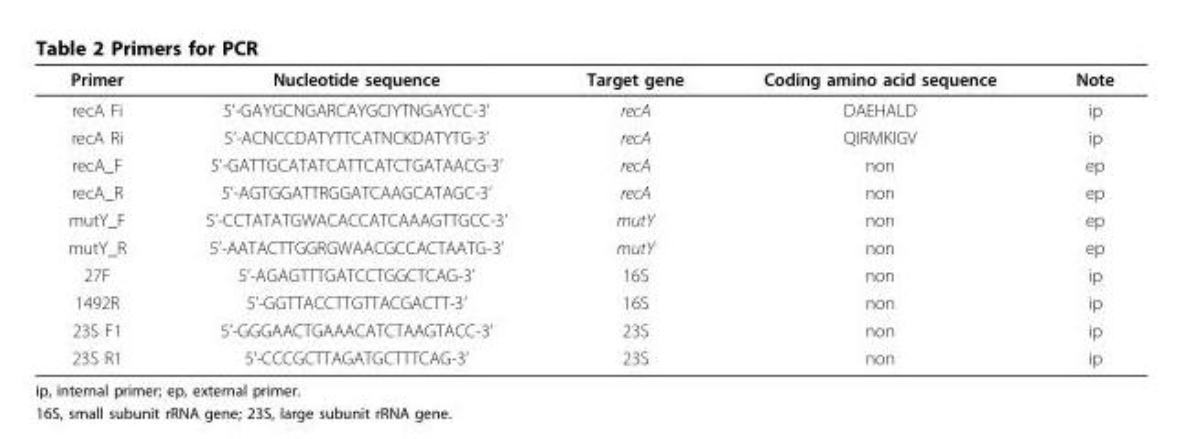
<table><thead><tr><td>Primer</td><td>Nucleotide sequence</td><td>Target gene</td><td>Coding amino acid sequence</td><td>Note</td></tr></thead><tbody><tr><td>recA Fi</td><td>5’-GAYGCNGARCAYGCIYTNGAYCC-3’</td><td>recA</td><td>DAEHALD</td><td>ip</td></tr><tr><td>recA Ri</td><td>5’-ACNCCDATYTTCATNCKDATYTG-3’</td><td>recA</td><td>QIRMKIGV</td><td>ip</td></tr><tr><td>recA_F</td><td>5’-GATTGCATATCATTCATCTGATAACG-3’</td><td>recA</td><td>non</td><td>ep</td></tr><tr><td>recA_R</td><td>5’-AGTGGATTRGGATCAAGCATAGC-3’</td><td>recA</td><td>non</td><td>ep</td></tr><tr><td>mutY_F</td><td>5’-CCTATATGWACACCATCAAAGTTGCC-3’</td><td>mutY</td><td>non</td><td>ep</td></tr><tr><td>mutY_R</td><td>5’-AATACTTGGRGWAACGCCACTAATG-3’</td><td>mutY</td><td>non</td><td>ep</td></tr><tr><td>27F</td><td>5’-AGAGTTTGATCCTGGCTCAG-3’</td><td>16S</td><td>non</td><td>ip</td></tr><tr><td>1492R</td><td>5’-GGTTACCTTGTTACGACTT-3’</td><td>16S</td><td>non</td><td>ip</td></tr><tr><td>23S F1</td><td>5’-GGGAACTGAAACATCTAAGTACC-3’</td><td>23S</td><td>non</td><td>ip</td></tr><tr><td>23S R1</td><td>5’-CCCGCTTAGATGCTTTCAG-3’</td><td>23S</td><td>non</td><td>ip</td></tr></tbody></table>